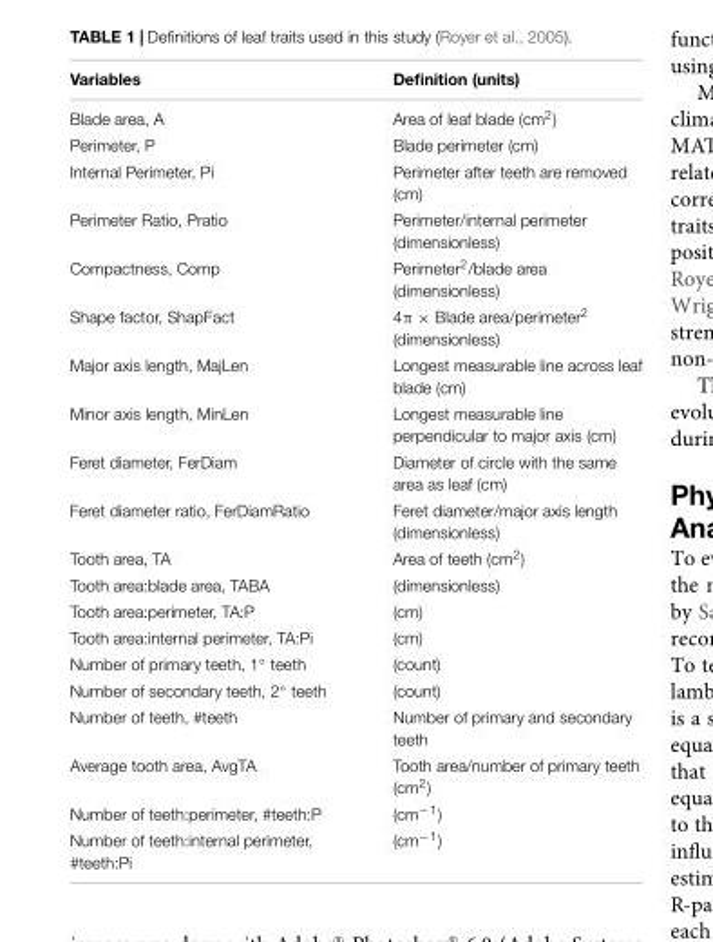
<table><thead><tr><td>Variables</td><td>Definition (units)</td></tr></thead><tbody><tr><td>Blade area, A</td><td>Area of leaf blade (cm<sup>2</sup>)</td></tr><tr><td>Perimeter, P</td><td>Blade perimeter (cm)</td></tr><tr><td>Internal Perimeter, Pi</td><td>Perimeter after teeth are removed (cm)</td></tr><tr><td>Perimeter Ratio, Pratio</td><td>Perimeter/internal perimeter (dimensionless)</td></tr><tr><td>Compactness, Comp</td><td>Perimeter<sup>2</sup>/blade area (dimensionless)</td></tr><tr><td>Shape factor, ShapFact</td><td>4π × Blade area/perimeter<sup>2</sup> (dimensionless)</td></tr><tr><td>Major axis length, MajLen</td><td>Longest measurable line across leaf blade (cm)</td></tr><tr><td>Minor axis length, MinLen</td><td>Longest measurable line perpendicular to major axis (cm)</td></tr><tr><td>Feret diameter, FerDiam</td><td>Diameter of circle with the same area as leaf (cm)</td></tr><tr><td>Feret diameter ratio, FerDiamRatio</td><td>Feret diameter/major axis length (dimensionless)</td></tr><tr><td>Tooth area, TA</td><td>Area of teeth (cm<sup>2</sup>)</td></tr><tr><td>Tooth area:blade area, TABA</td><td>(dimensionless)</td></tr><tr><td>Tooth area:perimeter, TA:P</td><td>(cm)</td></tr><tr><td>Tooth area:internal perimeter, TA:Pi</td><td>(cm)</td></tr><tr><td>Number of primary teeth, 1◦ teeth</td><td>(count)</td></tr><tr><td>Number of secondary teeth, 2◦ teeth</td><td>(count)</td></tr><tr><td>Number of teeth, #teeth</td><td>Number of primary and secondary teeth</td></tr><tr><td>Average tooth area, AvgTA</td><td>Tooth area/number of primary teeth (cm<sup>2</sup>)</td></tr><tr><td>Number of teeth:perimeter, #teeth:P</td><td>(cm<sup>−1</sup>)</td></tr><tr><td>Number of teeth:internal perimeter, #teeth:Pi</td><td>(cm<sup>−1</sup>)</td></tr></tbody></table>